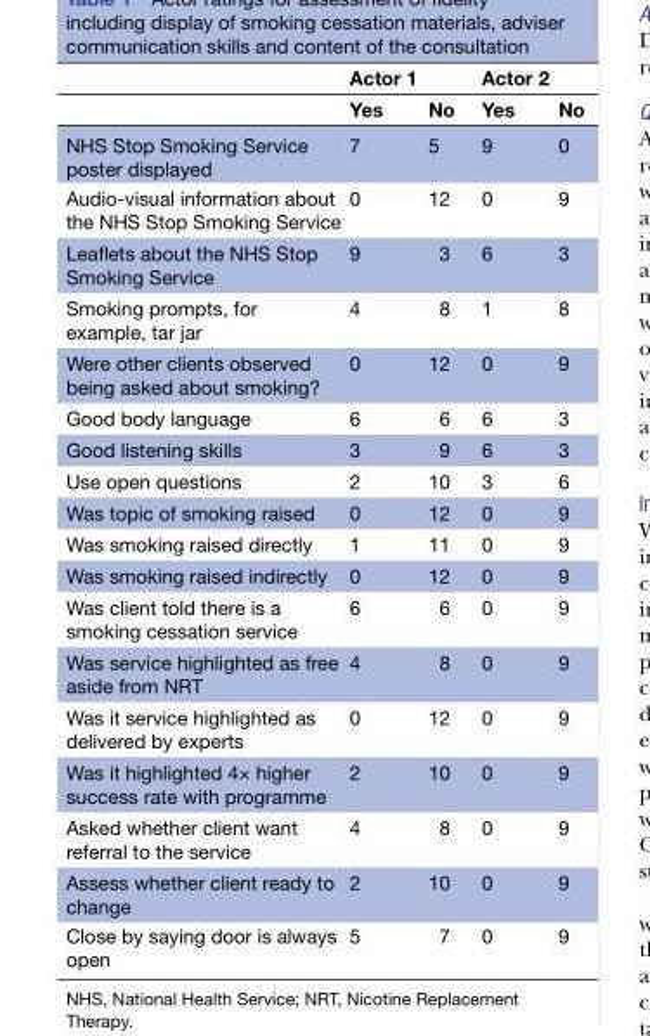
<table><thead><tr><td rowspan="2"></td><td rowspan="2">Actor 1 Yes</td><td rowspan="2">No</td><td rowspan="2">Actor 2 Yes</td><td rowspan="2">No</td></tr><tr></tr></thead><tbody><tr><td>NHS Stop Smoking Service poster displayed</td><td>7</td><td>5</td><td>9</td><td>0</td></tr><tr><td>Audio-visual information about the NHS Stop Smoking Service</td><td>0</td><td>12</td><td>0</td><td>9</td></tr><tr><td>Leaflets about the NHS Stop Smoking Service</td><td>9</td><td>3</td><td>6</td><td>3</td></tr><tr><td>Smoking prompts, for example, tar jar</td><td>4</td><td>8</td><td>1</td><td>8</td></tr><tr><td>Were other clients observed being asked about smoking?</td><td>0</td><td>12</td><td>0</td><td>9</td></tr><tr><td>Good body language</td><td>6</td><td>6</td><td>6</td><td>3</td></tr><tr><td>Good listening skills</td><td>3</td><td>9</td><td>6</td><td>3</td></tr><tr><td>Use open questions</td><td>2</td><td>10</td><td>3</td><td>6</td></tr><tr><td>Was topic of smoking raised</td><td>0</td><td>12</td><td>0</td><td>9</td></tr><tr><td>Was smoking raised directly</td><td>1</td><td>11</td><td>0</td><td>9</td></tr><tr><td>Was smoking raised indirectly</td><td>0</td><td>12</td><td>0</td><td>9</td></tr><tr><td>Was client told there is a smoking cessation service</td><td>6</td><td>6</td><td>0</td><td>9</td></tr><tr><td>Was service highlighted as free aside from NRT</td><td>4</td><td>8</td><td>0</td><td>9</td></tr><tr><td>Was it service highlighted as delivered by experts</td><td>0</td><td>12</td><td>0</td><td>9</td></tr><tr><td>Was it highlighted 4× higher success rate with programme</td><td>2</td><td>10</td><td>0</td><td>9</td></tr><tr><td>Asked whether client want referral to the service</td><td>4</td><td>8</td><td>0</td><td>9</td></tr><tr><td>Assess whether client ready to change</td><td>2</td><td>10</td><td>0</td><td>9</td></tr><tr><td>Close by saying door is always open</td><td>5</td><td>7</td><td>0</td><td>9</td></tr></tbody></table>